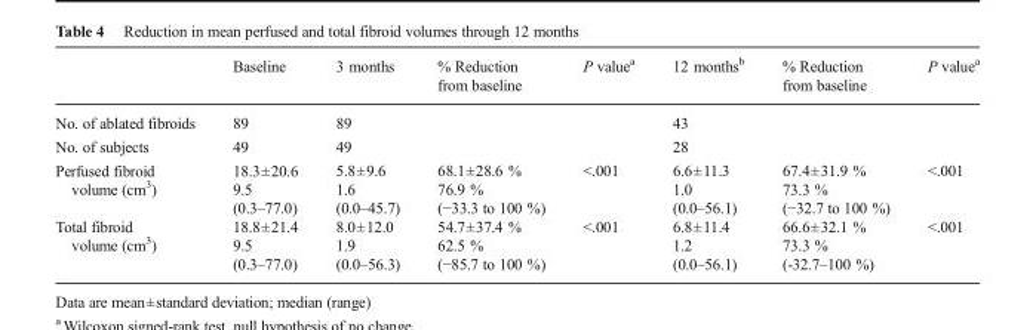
<table><thead><tr><td></td><td>Baseline</td><td>3 months</td><td>% Reduction from baseline</td><td>P value<sup>a</sup></td><td>12 months<sup>b</sup></td><td>% Reduction from baseline</td><td>P value<sup>a</sup></td></tr></thead><tbody><tr><td>No. of ablated fibroids</td><td>89</td><td>89</td><td></td><td></td><td>43</td><td></td><td></td></tr><tr><td>No. of subjects</td><td>49</td><td>49</td><td></td><td></td><td>28</td><td></td><td></td></tr><tr><td>Perfused fibroid volume (cm<sup>3</sup>)</td><td>18.3±20.6 9.5 (0.3–77.0)</td><td>5.8±9.6 1.6 (0.0–45.7)</td><td>68.1±28.6 % 76.9 % (−33.3 to 100 %)</td><td>&lt;.001</td><td>6.6±11.3 1.0 (0.0–56.1)</td><td>67.4±31.9 % 73.3 % (−32.7 to 100 %)</td><td>&lt;.001</td></tr><tr><td>Total fibroid volume (cm<sup>3</sup>)</td><td>18.8±21.4 9.5 (0.3–77.0)</td><td>8.0±12.0 1.9 (0.0–56.3)</td><td>54.7±37.4 % 62.5 % (−85.7 to 100 %)</td><td>&lt;.001</td><td>6.8±11.4 1.2 (0.0–56.1)</td><td>66.6±32.1 % 73.3 % (-32.7–100 %)</td><td>&lt;.001</td></tr></tbody></table>